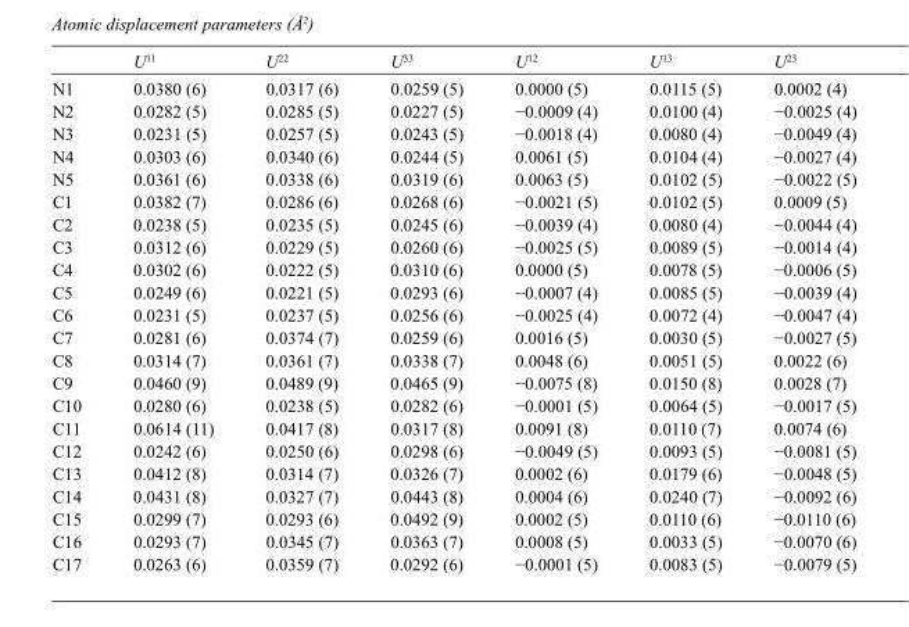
<table><thead><tr><td></td><td>U<sup>11</sup></td><td>U<sup>22</sup></td><td>U<sup>33</sup></td><td>U<sup>12</sup></td><td>U<sup>13</sup></td><td>U<sup>23</sup></td></tr></thead><tbody><tr><td>N1</td><td>0.0380 (6)</td><td>0.0317 (6)</td><td>0.0259 (5)</td><td>0.0000 (5)</td><td>0.0115 (5)</td><td>0.0002 (4)</td></tr><tr><td>N2</td><td>0.0282 (5)</td><td>0.0285 (5)</td><td>0.0227 (5)</td><td>−0.0009 (4)</td><td>0.0100 (4)</td><td>−0.0025 (4)</td></tr><tr><td>N3</td><td>0.0231 (5)</td><td>0.0257 (5)</td><td>0.0243 (5)</td><td>−0.0018 (4)</td><td>0.0080 (4)</td><td>−0.0049 (4)</td></tr><tr><td>N4</td><td>0.0303 (6)</td><td>0.0340 (6)</td><td>0.0244 (5)</td><td>0.0061 (5)</td><td>0.0104 (4)</td><td>−0.0027 (4)</td></tr><tr><td>N5</td><td>0.0361 (6)</td><td>0.0338 (6)</td><td>0.0319 (6)</td><td>0.0063 (5)</td><td>0.0102 (5)</td><td>−0.0022 (5)</td></tr><tr><td>C1</td><td>0.0382 (7)</td><td>0.0286 (6)</td><td>0.0268 (6)</td><td>−0.0021 (5)</td><td>0.0102 (5)</td><td>0.0009 (5)</td></tr><tr><td>C2</td><td>0.0238 (5)</td><td>0.0235 (5)</td><td>0.0245 (6)</td><td>−0.0039 (4)</td><td>0.0080 (4)</td><td>−0.0044 (4)</td></tr><tr><td>C3</td><td>0.0312 (6)</td><td>0.0229 (5)</td><td>0.0260 (6)</td><td>−0.0025 (5)</td><td>0.0089 (5)</td><td>−0.0014 (4)</td></tr><tr><td>C4</td><td>0.0302 (6)</td><td>0.0222 (5)</td><td>0.0310 (6)</td><td>0.0000 (5)</td><td>0.0078 (5)</td><td>−0.0006 (5)</td></tr><tr><td>C5</td><td>0.0249 (6)</td><td>0.0221 (5)</td><td>0.0293 (6)</td><td>−0.0007 (4)</td><td>0.0085 (5)</td><td>−0.0039 (4)</td></tr><tr><td>C6</td><td>0.0231 (5)</td><td>0.0237 (5)</td><td>0.0256 (6)</td><td>−0.0025 (4)</td><td>0.0072 (4)</td><td>−0.0047 (4)</td></tr><tr><td>C7</td><td>0.0281 (6)</td><td>0.0374 (7)</td><td>0.0259 (6)</td><td>0.0016 (5)</td><td>0.0030 (5)</td><td>−0.0027 (5)</td></tr><tr><td>C8</td><td>0.0314 (7)</td><td>0.0361 (7)</td><td>0.0338 (7)</td><td>0.0048 (6)</td><td>0.0051 (5)</td><td>0.0022 (6)</td></tr><tr><td>C9</td><td>0.0460 (9)</td><td>0.0489 (9)</td><td>0.0465 (9)</td><td>−0.0075 (8)</td><td>0.0150 (8)</td><td>0.0028 (7)</td></tr><tr><td>C10</td><td>0.0280 (6)</td><td>0.0238 (5)</td><td>0.0282 (6)</td><td>−0.0001 (5)</td><td>0.0064 (5)</td><td>−0.0017 (5)</td></tr><tr><td>C11</td><td>0.0614 (11)</td><td>0.0417 (8)</td><td>0.0317 (8)</td><td>0.0091 (8)</td><td>0.0110 (7)</td><td>0.0074 (6)</td></tr><tr><td>C12</td><td>0.0242 (6)</td><td>0.0250 (6)</td><td>0.0298 (6)</td><td>−0.0049 (5)</td><td>0.0093 (5)</td><td>−0.0081 (5)</td></tr><tr><td>C13</td><td>0.0412 (8)</td><td>0.0314 (7)</td><td>0.0326 (7)</td><td>0.0002 (6)</td><td>0.0179 (6)</td><td>−0.0048 (5)</td></tr><tr><td>C14</td><td>0.0431 (8)</td><td>0.0327 (7)</td><td>0.0443 (8)</td><td>0.0004 (6)</td><td>0.0240 (7)</td><td>−0.0092 (6)</td></tr><tr><td>C15</td><td>0.0299 (7)</td><td>0.0293 (6)</td><td>0.0492 (9)</td><td>0.0002 (5)</td><td>0.0110 (6)</td><td>−0.0110 (6)</td></tr><tr><td>C16</td><td>0.0293 (7)</td><td>0.0345 (7)</td><td>0.0363 (7)</td><td>0.0008 (5)</td><td>0.0033 (5)</td><td>−0.0070 (6)</td></tr><tr><td>C17</td><td>0.0263 (6)</td><td>0.0359 (7)</td><td>0.0292 (6)</td><td>−0.0001 (5)</td><td>0.0083 (5)</td><td>−0.0079 (5)</td></tr></tbody></table>